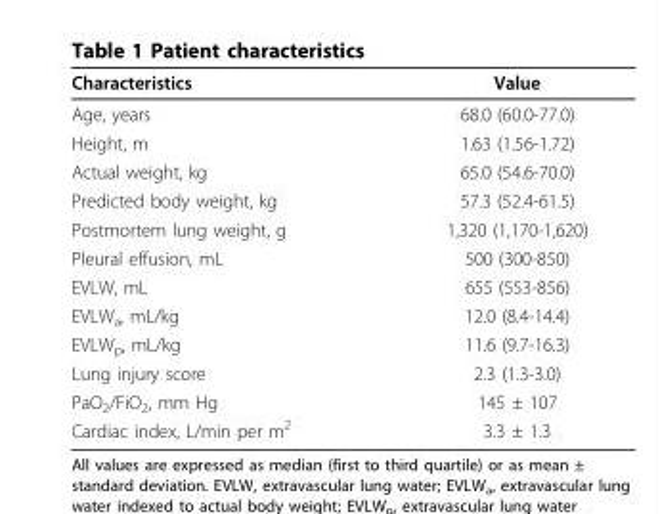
<table><thead><tr><td>Characteristics</td><td>Value</td></tr></thead><tbody><tr><td>Age, years</td><td>68.0 (60.0-77.0)</td></tr><tr><td>Height, m</td><td>1.63 (1.56-1.72)</td></tr><tr><td>Actual weight, kg</td><td>65.0 (54.6-70.0)</td></tr><tr><td>Predicted body weight, kg</td><td>57.3 (52.4-61.5)</td></tr><tr><td>Postmortem lung weight, g</td><td>1,320 (1,170-1,620)</td></tr><tr><td>Pleural effusion, mL</td><td>500 (300-850)</td></tr><tr><td>EVLW, mL</td><td>655 (553-856)</td></tr><tr><td>EVLW<sub>a</sub>, mL/kg</td><td>12.0 (8.4-14.4)</td></tr><tr><td>EVLW<sub>p</sub>, mL/kg</td><td>11.6 (9.7-16.3)</td></tr><tr><td>Lung injury score</td><td>2.3 (1.3-3.0)</td></tr><tr><td>PaO<sub>2</sub>/FiO<sub>2</sub>, mm Hg</td><td>145 ± 107</td></tr><tr><td>Cardiac index, L/min per m<sup>2</sup></td><td>3.3 ± 1.3</td></tr></tbody></table>